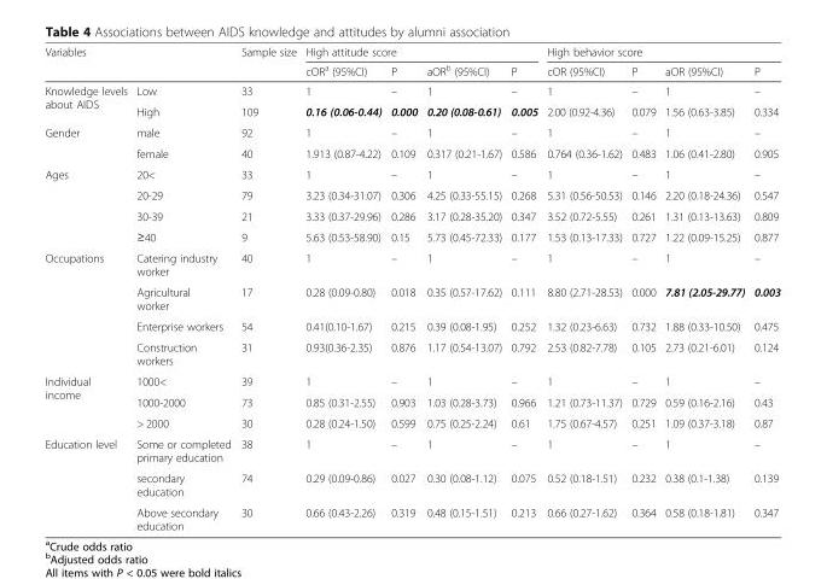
<table><thead><tr><td rowspan="2">Variables</td><td rowspan="2"></td><td rowspan="2">Sample size</td><td colspan="4">High attitude score</td><td colspan="4">High behavior score</td></tr><tr><td>cOR<sup>a</sup> (95%CI)</td><td>P</td><td>aOR<sup>b</sup> (95%CI)</td><td>P</td><td>cOR (95%CI)</td><td>P</td><td>aOR (95%CI)</td><td>P</td></tr></thead><tbody><tr><td rowspan="2">Knowledge levels about AIDS</td><td>Low</td><td>33</td><td>1</td><td>–</td><td>1</td><td>–</td><td>1</td><td>–</td><td>1</td><td>–</td></tr><tr><td>High</td><td>109</td><td>0.16 (0.06-0.44)</td><td>0.000</td><td>0.20 (0.08-0.61)</td><td>0.005</td><td>2.00 (0.92-4.36)</td><td>0.079</td><td>1.56 (0.63-3.85)</td><td>0.334</td></tr><tr><td rowspan="2">Gender</td><td>male</td><td>92</td><td>1</td><td>–</td><td>1</td><td>–</td><td>1</td><td>–</td><td>1</td><td>–</td></tr><tr><td>female</td><td>40</td><td>1.913 (0.87-4.22)</td><td>0.109</td><td>0.317 (0.21-1.67)</td><td>0.586</td><td>0.764 (0.36-1.62)</td><td>0.483</td><td>1.06 (0.41-2.80)</td><td>0.905</td></tr><tr><td rowspan="4">Ages</td><td>20&lt;</td><td>33</td><td>1</td><td>–</td><td>1</td><td>–</td><td>1</td><td>–</td><td>1</td><td>–</td></tr><tr><td>20-29</td><td>79</td><td>3.23 (0.34-31.07)</td><td>0.306</td><td>4.25 (0.33-55.15)</td><td>0.268</td><td>5.31 (0.56-50.53)</td><td>0.146</td><td>2.20 (0.18-24.36)</td><td>0.547</td></tr><tr><td>30-39</td><td>21</td><td>3.33 (0.37-29.96)</td><td>0.286</td><td>3.17 (0.28-35.20)</td><td>0.347</td><td>3.52 (0.72-5.55)</td><td>0.261</td><td>1.31 (0.13-13.63)</td><td>0.809</td></tr><tr><td>≥40</td><td>9</td><td>5.63 (0.53-58.90)</td><td>0.15</td><td>5.73 (0.45-72.33)</td><td>0.177</td><td>1.53 (0.13-17.33)</td><td>0.727</td><td>1.22 (0.09-15.25)</td><td>0.877</td></tr><tr><td rowspan="4">Occupations</td><td>Catering industry worker</td><td>40</td><td>1</td><td>–</td><td>1</td><td>–</td><td>1</td><td>–</td><td>1</td><td>–</td></tr><tr><td>Agricultural worker</td><td>17</td><td>0.28 (0.09-0.80)</td><td>0.018</td><td>0.35 (0.57-17.62)</td><td>0.111</td><td>8.80 (2.71-28.53)</td><td>0.000</td><td>7.81 (2.05-29.77)</td><td>0.003</td></tr><tr><td>Enterprise workers</td><td>54</td><td>0.41(0.10-1.67)</td><td>0.215</td><td>0.39 (0.08-1.95)</td><td>0.252</td><td>1.32 (0.23-6.63)</td><td>0.732</td><td>1.88 (0.33-10.50)</td><td>0.475</td></tr><tr><td>Construction workers</td><td>31</td><td>0.93(0.36-2.35)</td><td>0.876</td><td>1.17 (0.54-13.07)</td><td>0.792</td><td>2.53 (0.82-7.78)</td><td>0.105</td><td>2.73 (0.21-6.01)</td><td>0.124</td></tr><tr><td rowspan="3">Individual income</td><td>1000&lt;</td><td>39</td><td>1</td><td>–</td><td>1</td><td>–</td><td>1</td><td>–</td><td>1</td><td>–</td></tr><tr><td>1000-2000</td><td>73</td><td>0.85 (0.31-2.55)</td><td>0.903</td><td>1.03 (0.28-3.73)</td><td>0.966</td><td>1.21 (0.73-11.37)</td><td>0.729</td><td>0.59 (0.16-2.16)</td><td>0.43</td></tr><tr><td>&gt; 2000</td><td>30</td><td>0.28 (0.24-1.50)</td><td>0.599</td><td>0.75 (0.25-2.24)</td><td>0.61</td><td>1.75 (0.67-4.57)</td><td>0.251</td><td>1.09 (0.37-3.18)</td><td>0.87</td></tr><tr><td rowspan="3">Education level</td><td>Some or completed primary education</td><td>38</td><td>1</td><td>–</td><td>1</td><td>–</td><td>1</td><td>–</td><td>1</td><td>–</td></tr><tr><td>secondary education</td><td>74</td><td>0.29 (0.09-0.86)</td><td>0.027</td><td>0.30 (0.08-1.12)</td><td>0.075</td><td>0.52 (0.18-1.51)</td><td>0.232</td><td>0.38 (0.1-1.38)</td><td>0.139</td></tr><tr><td>Above secondary education</td><td>30</td><td>0.66 (0.43-2.26)</td><td>0.319</td><td>0.48 (0.15-1.51)</td><td>0.213</td><td>0.66 (0.27-1.62)</td><td>0.364</td><td>0.58 (0.18-1.81)</td><td>0.347</td></tr></tbody></table>